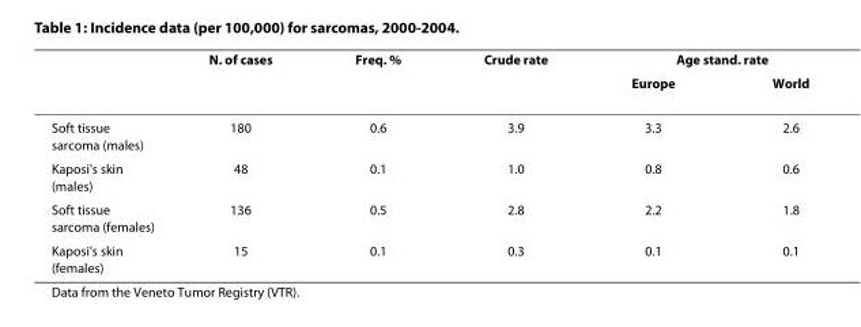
<table><thead><tr><td rowspan="2"></td><td rowspan="2">N. of cases</td><td rowspan="2">Freq. %</td><td rowspan="2">Crude rate</td><td colspan="2">Age stand. rate</td></tr><tr><td>Europe</td><td>World</td></tr></thead><tbody><tr><td>Soft tissue sarcoma (males)</td><td>180</td><td>0.6</td><td>3.9</td><td>3.3</td><td>2.6</td></tr><tr><td>Kaposi&#x27;s skin (males)</td><td>48</td><td>0.1</td><td>1.0</td><td>0.8</td><td>0.6</td></tr><tr><td>Soft tissue sarcoma (females)</td><td>136</td><td>0.5</td><td>2.8</td><td>2.2</td><td>1.8</td></tr><tr><td>Kaposi&#x27;s skin (females)</td><td>15</td><td>0.1</td><td>0.3</td><td>0.1</td><td>0.1</td></tr></tbody></table>